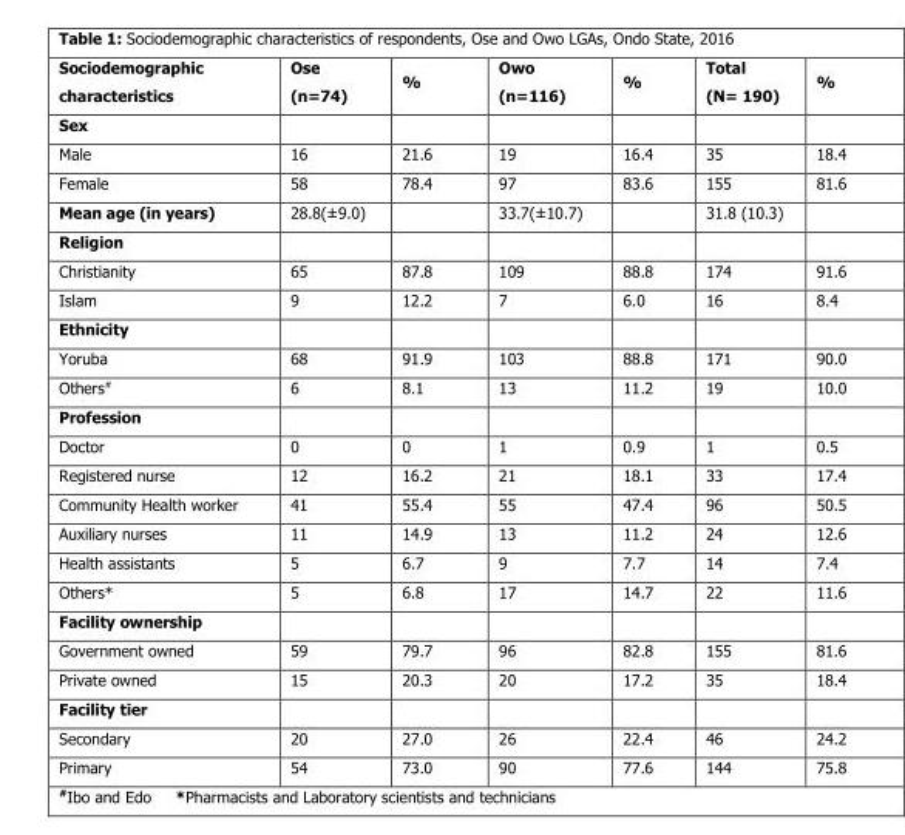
<table><thead><tr><td>Sociodemographic characteristics</td><td>Ose (n=74)</td><td>%</td><td>Owo (n=116)</td><td>%</td><td>Total (N= 190)</td><td>%</td></tr></thead><tbody><tr><td colspan="7">Sex</td></tr><tr><td>Male</td><td>16</td><td>21.6</td><td>19</td><td>16.4</td><td>35</td><td>18.4</td></tr><tr><td>Female</td><td>58</td><td>78.4</td><td>97</td><td>83.6</td><td>155</td><td>81.6</td></tr><tr><td>Mean age (in years)</td><td>28.8(±9.0)</td><td></td><td>33.7(±10.7)</td><td></td><td>31.8 (10.3)</td><td></td></tr><tr><td colspan="7">Religion</td></tr><tr><td>Christianity</td><td>65</td><td>87.8</td><td>109</td><td>88.8</td><td>174</td><td>91.6</td></tr><tr><td>Islam</td><td>9</td><td>12.2</td><td>7</td><td>6.0</td><td>16</td><td>8.4</td></tr><tr><td colspan="7">Ethnicity</td></tr><tr><td>Yoruba</td><td>68</td><td>91.9</td><td>103</td><td>88.8</td><td>171</td><td>90.0</td></tr><tr><td>Others<sup>#</sup></td><td>6</td><td>8.1</td><td>13</td><td>11.2</td><td>19</td><td>10.0</td></tr><tr><td colspan="7">Profession</td></tr><tr><td>Doctor</td><td>0</td><td>0</td><td>1</td><td>0.9</td><td>1</td><td>0.5</td></tr><tr><td>Registered nurse</td><td>12</td><td>16.2</td><td>21</td><td>18.1</td><td>33</td><td>17.4</td></tr><tr><td>Community Health worker</td><td>41</td><td>55.4</td><td>55</td><td>47.4</td><td>96</td><td>50.5</td></tr><tr><td>Auxiliary nurses</td><td>11</td><td>14.9</td><td>13</td><td>11.2</td><td>24</td><td>12.6</td></tr><tr><td>Health assistants</td><td>5</td><td>6.7</td><td>9</td><td>7.7</td><td>14</td><td>7.4</td></tr><tr><td>Others*</td><td>5</td><td>6.8</td><td>17</td><td>14.7</td><td>22</td><td>11.6</td></tr><tr><td colspan="7">Facility ownership</td></tr><tr><td>Government owned</td><td>59</td><td>79.7</td><td>96</td><td>82.8</td><td>155</td><td>81.6</td></tr><tr><td>Private owned</td><td>15</td><td>20.3</td><td>20</td><td>17.2</td><td>35</td><td>18.4</td></tr><tr><td colspan="7">Facility tier</td></tr><tr><td>Secondary</td><td>20</td><td>27.0</td><td>26</td><td>22.4</td><td>46</td><td>24.2</td></tr><tr><td>Primary</td><td>54</td><td>73.0</td><td>90</td><td>77.6</td><td>144</td><td>75.8</td></tr></tbody></table>